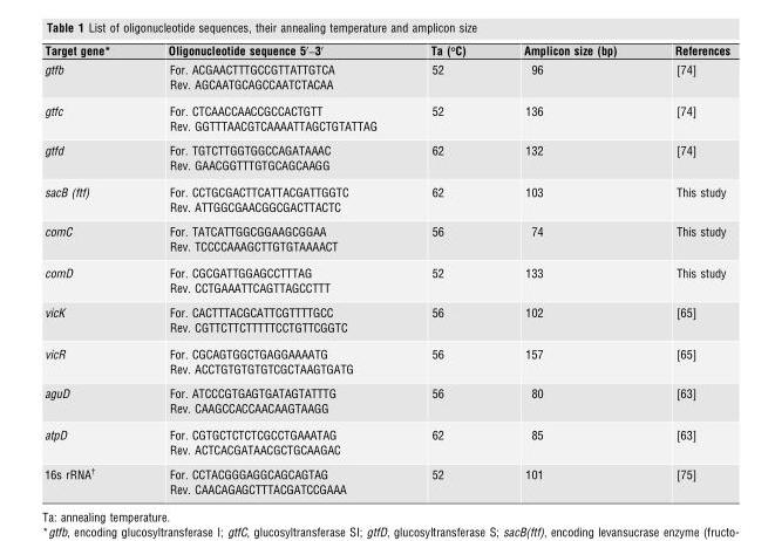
<table><thead><tr><td>Target gene*</td><td>Oligonucleotide sequence 5′–3′</td><td>Ta (°C)</td><td>Amplicon size (bp)</td><td>References</td></tr></thead><tbody><tr><td>gtfb</td><td>For. ACGAACTTTGCCGTTATTGTCA Rev. AGCAATGCAGCCAATCTACAA</td><td>52</td><td>96</td><td>[74]</td></tr><tr><td>gtfc</td><td>For. CTCAACCAACCGCCACTGTT Rev. GGTTTAACGTCAAAATTAGCTGTATTAG</td><td>52</td><td>136</td><td>[74]</td></tr><tr><td>gtfd</td><td>For. TGTCTTGGTGGCCAGATAAAC Rev. GAACGGTTTGTGCAGCAAGG</td><td>62</td><td>132</td><td>[74]</td></tr><tr><td>sacB (ftf)</td><td>For. CCTGCGACTTCATTACGATTGGTC Rev. ATTGGCGAACGGCGACTTACTC</td><td>62</td><td>103</td><td>This study</td></tr><tr><td>comC</td><td>For. TATCATTGGCGGAAGCGGAA Rev. TCCCCAAAGCTTGTGTAAAACT</td><td>56</td><td>74</td><td>This study</td></tr><tr><td>comD</td><td>For. CGCGATTGGAGCCTTTAG Rev. CCTGAAATTCAGTTAGCCTTT</td><td>52</td><td>133</td><td>This study</td></tr><tr><td>vicK</td><td>For. CACTTTACGCATTCGTTTTGCC Rev. CGTTCTTCTTTTTCCTGTTCGGTC</td><td>56</td><td>102</td><td>[65]</td></tr><tr><td>vicR</td><td>For. CGCAGTGGCTGAGGAAAATG Rev. ACCTGTGTGTGTCGCTAAGTGATG</td><td>56</td><td>157</td><td>[65]</td></tr><tr><td>aguD</td><td>For. ATCCCGTGAGTGATAGTATTTG Rev. CAAGCCACCAACAAGTAAGG</td><td>56</td><td>80</td><td>[63]</td></tr><tr><td>atpD</td><td>For. CGTGCTCTCTCGCCTGAAATAG Rev. ACTCACGATAACGCTGCAAGAC</td><td>62</td><td>85</td><td>[63]</td></tr><tr><td>16s rRNA†</td><td>For. CCTACGGGAGGCAGCAGTAG Rev. CAACAGAGCTTTACGATCCGAAA</td><td>52</td><td>101</td><td>[75]</td></tr></tbody></table>